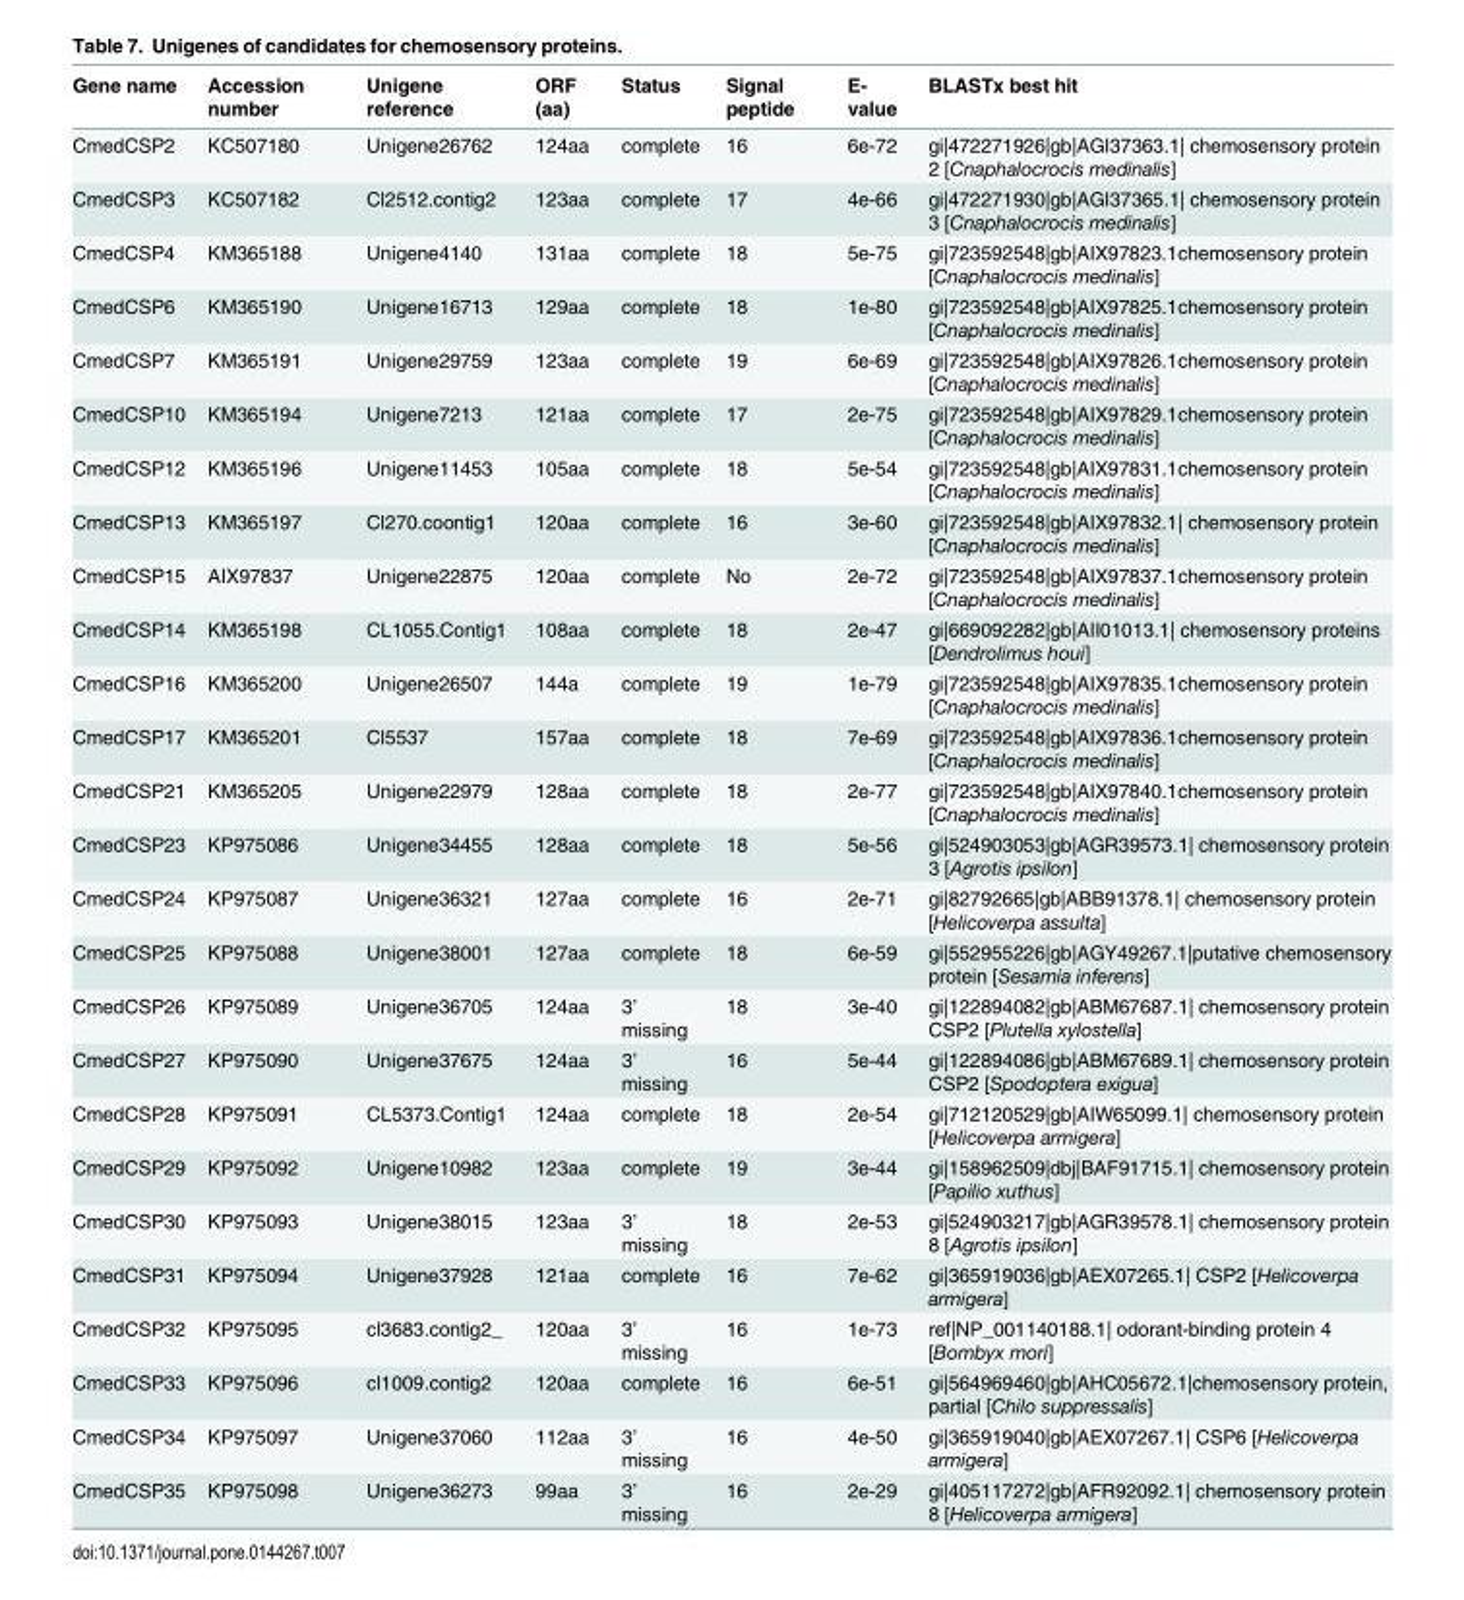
<table><thead><tr><td>Gene name</td><td>Accession number</td><td>Unigene reference</td><td>ORF (aa)</td><td>Status</td><td>Signal peptide</td><td>E- value</td><td>BLASTx best hit</td></tr></thead><tbody><tr><td>CmedCSP2</td><td>KC507180</td><td>Unigene26762</td><td>124aa</td><td>complete</td><td>16</td><td>6e-72</td><td>gi|472271926|gb|AGI37363.1| chemosensory protein 2 [Cnaphalocrocis medinalis]</td></tr><tr><td>CmedCSP3</td><td>KC507182</td><td>Cl2512.contig2</td><td>123aa</td><td>complete</td><td>17</td><td>4e-66</td><td>gi|472271930|gb|AGI37365.1| chemosensory protein 3 [Cnaphalocrocis medinalis]</td></tr><tr><td>CmedCSP4</td><td>KM365188</td><td>Unigene4140</td><td>131aa</td><td>complete</td><td>18</td><td>5e-75</td><td>gi|723592548|gb|AIX97823.1chemosensory protein [Cnaphalocrocis medinalis]</td></tr><tr><td>CmedCSP6</td><td>KM365190</td><td>Unigene16713</td><td>129aa</td><td>complete</td><td>18</td><td>1e-80</td><td>gi|723592548|gb|AIX97825.1chemosensory protein [Cnaphalocrocis medinalis]</td></tr><tr><td>CmedCSP7</td><td>KM365191</td><td>Unigene29759</td><td>123aa</td><td>complete</td><td>19</td><td>6e-69</td><td>gi|723592548|gb|AIX97826.1chemosensory protein [Cnaphalocrocis medinalis]</td></tr><tr><td>CmedCSP10</td><td>KM365194</td><td>Unigene7213</td><td>121aa</td><td>complete</td><td>17</td><td>2e-75</td><td>gi|723592548|gb|AIX97829.1chemosensory protein [Cnaphalocrocis medinalis]</td></tr><tr><td>CmedCSP12</td><td>KM365196</td><td>Unigene11453</td><td>105aa</td><td>complete</td><td>18</td><td>5e-54</td><td>gi|723592548|gb|AIX97831.1chemosensory protein [Cnaphalocrocis medinalis]</td></tr><tr><td>CmedCSP13</td><td>KM365197</td><td>Cl270.coontig1</td><td>120aa</td><td>complete</td><td>16</td><td>3e-60</td><td>gi|723592548|gb|AIX97832.1| chemosensory protein [Cnaphalocrocis medinalis]</td></tr><tr><td>CmedCSP15</td><td>AIX97837</td><td>Unigene22875</td><td>120aa</td><td>complete</td><td>No</td><td>2e-72</td><td>gi|723592548|gb|AIX97837.1chemosensory protein [Cnaphalocrocis medinalis]</td></tr><tr><td>CmedCSP14</td><td>KM365198</td><td>CL1055.Contig1</td><td>108aa</td><td>complete</td><td>18</td><td>2e-47</td><td>gi|669092282|gb|AII01013.1| chemosensory proteins [Dendrolimus houi]</td></tr><tr><td>CmedCSP16</td><td>KM365200</td><td>Unigene26507</td><td>144a</td><td>complete</td><td>19</td><td>1e-79</td><td>gi|723592548|gb|AIX97835.1chemosensory protein [Cnaphalocrocis medinalis]</td></tr><tr><td>CmedCSP17</td><td>KM365201</td><td>Cl5537</td><td>157aa</td><td>complete</td><td>18</td><td>7e-69</td><td>gi|723592548|gb|AIX97836.1chemosensory protein [Cnaphalocrocis medinalis]</td></tr><tr><td>CmedCSP21</td><td>KM365205</td><td>Unigene22979</td><td>128aa</td><td>complete</td><td>18</td><td>2e-77</td><td>gi|723592548|gb|AIX97840.1chemosensory protein [Cnaphalocrocis medinalis]</td></tr><tr><td>CmedCSP23</td><td>KP975086</td><td>Unigene34455</td><td>128aa</td><td>complete</td><td>18</td><td>5e-56</td><td>gi|524903053|gb|AGR39573.1| chemosensory protein 3 [Agrotis ipsilon]</td></tr><tr><td>CmedCSP24</td><td>KP975087</td><td>Unigene36321</td><td>127aa</td><td>complete</td><td>16</td><td>2e-71</td><td>gi|82792665|gb|ABB91378.1| chemosensory protein [Helicoverpa assulta]</td></tr><tr><td>CmedCSP25</td><td>KP975088</td><td>Unigene38001</td><td>127aa</td><td>complete</td><td>18</td><td>6e-59</td><td>gi|552955226|gb|AGY49267.1|putative chemosensory protein [Sesamia inferens]</td></tr><tr><td>CmedCSP26</td><td>KP975089</td><td>Unigene36705</td><td>124aa</td><td>3’ missing</td><td>18</td><td>3e-40</td><td>gi|122894082|gb|ABM67687.1| chemosensory protein CSP2 [Plutella xylostella]</td></tr><tr><td>CmedCSP27</td><td>KP975090</td><td>Unigene37675</td><td>124aa</td><td>3’ missing</td><td>16</td><td>5e-44</td><td>gi|122894086|gb|ABM67689.1| chemosensory protein CSP2 [Spodoptera exigua]</td></tr><tr><td>CmedCSP28</td><td>KP975091</td><td>CL5373.Contig1</td><td>124aa</td><td>complete</td><td>18</td><td>2e-54</td><td>gi|712120529|gb|AIW65099.1| chemosensory protein [Helicoverpa armigera]</td></tr><tr><td>CmedCSP29</td><td>KP975092</td><td>Unigene10982</td><td>123aa</td><td>complete</td><td>19</td><td>3e-44</td><td>gi|158962509|dbj|BAF91715.1| chemosensory protein [Papilio xuthus]</td></tr><tr><td>CmedCSP30</td><td>KP975093</td><td>Unigene38015</td><td>123aa</td><td>3’ missing</td><td>18</td><td>2e-53</td><td>gi|524903217|gb|AGR39578.1| chemosensory protein 8 [Agrotis ipsilon]</td></tr><tr><td>CmedCSP31</td><td>KP975094</td><td>Unigene37928</td><td>121aa</td><td>complete</td><td>16</td><td>7e-62</td><td>gi|365919036|gb|AEX07265.1| CSP2 [Helicoverpa armigera]</td></tr><tr><td>CmedCSP32</td><td>KP975095</td><td>cl3683.contig2_</td><td>120aa</td><td>3’ missing</td><td>16</td><td>1e-73</td><td>ref|NP_001140188.1| odorant-binding protein 4 [Bombyx mori]</td></tr><tr><td>CmedCSP33</td><td>KP975096</td><td>cl1009.contig2</td><td>120aa</td><td>complete</td><td>16</td><td>6e-51</td><td>gi|564969460|gb|AHC05672.1|chemosensory protein, partial [Chilo suppressalis]</td></tr><tr><td>CmedCSP34</td><td>KP975097</td><td>Unigene37060</td><td>112aa</td><td>3’ missing</td><td>16</td><td>4e-50</td><td>gi|365919040|gb|AEX07267.1| CSP6 [Helicoverpa armigera]</td></tr><tr><td>CmedCSP35</td><td>KP975098</td><td>Unigene36273</td><td>99aa</td><td>3’ missing</td><td>16</td><td>2e-29</td><td>gi|405117272|gb|AFR92092.1| chemosensory protein 8 [Helicoverpa armigera]</td></tr></tbody></table>